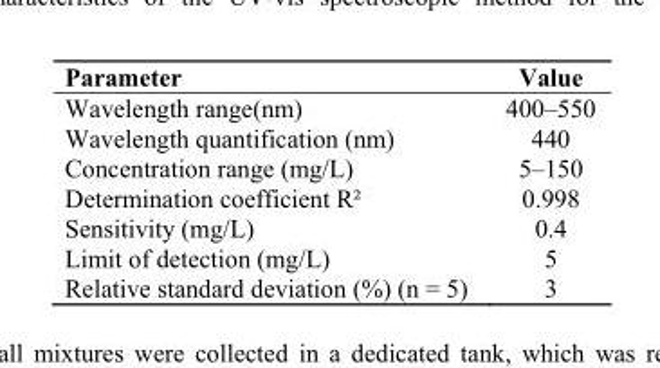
<table><thead><tr><td>Parameter</td><td>Value</td></tr></thead><tbody><tr><td>Wavelength range(nm)</td><td>400–550</td></tr><tr><td>Wavelength quantification (nm)</td><td>440</td></tr><tr><td>Concentration range (mg/L)</td><td>5–150</td></tr><tr><td>Determination coefficient R²</td><td>0.998</td></tr><tr><td>Sensitivity (mg/L)</td><td>0.4</td></tr><tr><td>Limit of detection (mg/L)</td><td>5</td></tr><tr><td>Relative standard deviation (%) (n = 5)</td><td>3</td></tr></tbody></table>